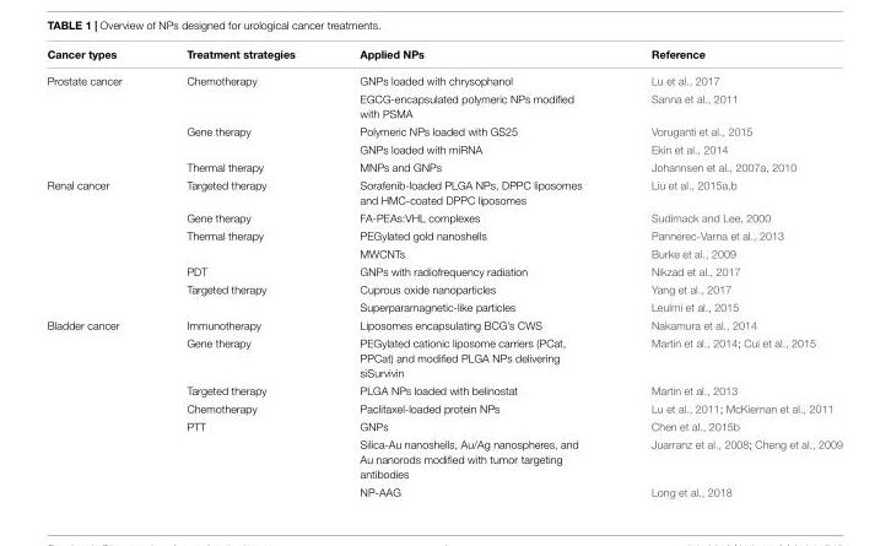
<table><thead><tr><td>Cancer types</td><td>Treatment strategies</td><td>Applied NPs</td><td>Reference</td></tr></thead><tbody><tr><td rowspan="5">Prostate cancer</td><td>Chemotherapy</td><td>GNPs loaded with chrysophanol</td><td>Lu et al., 2017</td></tr><tr><td></td><td>EGCG-encapsulated polymeric NPs modified with PSMA</td><td>Sanna et al., 2011</td></tr><tr><td>Gene therapy</td><td>Polymeric NPs loaded with GS25</td><td>Voruganti et al., 2015</td></tr><tr><td></td><td>GNPs loaded with miRNA</td><td>Ekin et al., 2014</td></tr><tr><td>Thermal therapy</td><td>MNPs and GNPs</td><td>Johannsen et al., 2007a, 2010</td></tr><tr><td rowspan="7">Renal cancer</td><td>Targeted therapy</td><td>Sorafenib-loaded PLGA NPs, DPPC liposomes and HMC-coated DPPC liposomes</td><td>Liu et al., 2015a,b</td></tr><tr><td>Gene therapy</td><td>FA-PEAs:VHL complexes</td><td>Sudimack and Lee, 2000</td></tr><tr><td>Thermal therapy</td><td>PEGylated gold nanoshells</td><td>Pannerec-Varna et al., 2013</td></tr><tr><td></td><td>MWCNTs</td><td>Burke et al., 2009</td></tr><tr><td>PDT</td><td>GNPs with radiofrequency radiation</td><td>Nikzad et al., 2017</td></tr><tr><td>Targeted therapy</td><td>Cuprous oxide nanoparticles</td><td>Yang et al., 2017</td></tr><tr><td></td><td>Superparamagnetic-like particles</td><td>Leulmi et al., 2015</td></tr><tr><td rowspan="7">Bladder cancer</td><td>Immunotherapy</td><td>Liposomes encapsulating BCG’s CWS</td><td>Nakamura et al., 2014</td></tr><tr><td>Gene therapy</td><td>PEGylated cationic liposome carriers (PCat, PPCat) and modified PLGA NPs delivering siSurvivin</td><td>Martin et al., 2014; Cui et al., 2015</td></tr><tr><td>Targeted therapy</td><td>PLGA NPs loaded with belinostat</td><td>Martin et al., 2013</td></tr><tr><td>Chemotherapy</td><td>Paclitaxel-loaded protein NPs</td><td>Lu et al., 2011; McKiernan et al., 2011</td></tr><tr><td>PTT</td><td>GNPs</td><td>Chen et al., 2015b</td></tr><tr><td></td><td>Silica-Au nanoshells, Au/Ag nanospheres, and Au nanorods modified with tumor targeting antibodies</td><td>Juarranz et al., 2008; Cheng et al., 2009</td></tr><tr><td></td><td>NP-AAG</td><td>Long et al., 2018</td></tr></tbody></table>